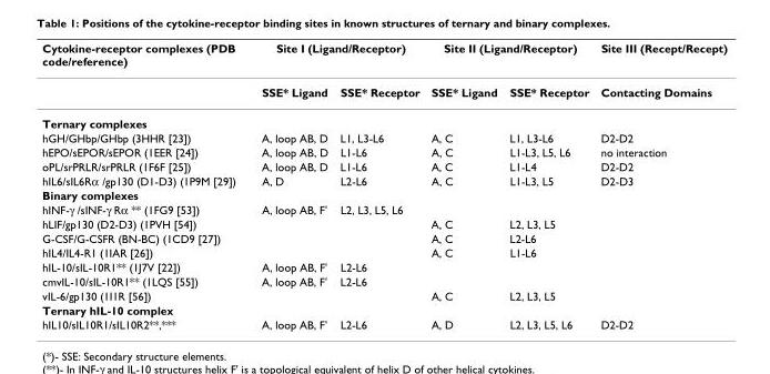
<table><thead><tr><td rowspan="2">Cytokine-receptor complexes (PDB code/reference)</td><td colspan="2">Site I (Ligand/Receptor)</td><td colspan="2">Site II (Ligand/Receptor)</td><td rowspan="2">Site III (Recept/Recept) Contacting Domains</td></tr><tr><td>SSE* Ligand</td><td>SSE* Receptor</td><td>SSE* Ligand</td><td>SSE* Receptor</td></tr></thead><tbody><tr><td colspan="6">Ternary complexes</td></tr><tr><td>hGH/GHbp/GHbp (3HHR [23])</td><td>A, loop AB, D</td><td>L1, L3-L6</td><td>A, C</td><td>L1, L3-L6</td><td>D2-D2</td></tr><tr><td>hEPO/sEPOR/sEPOR (1EER [24])</td><td>A, loop AB, D</td><td>L1-L6</td><td>A, C</td><td>L1-L3, L5, L6</td><td>no interaction</td></tr><tr><td>oPL/srPRLR/srPRLR (1F6F [25])</td><td>A, loop AB, D</td><td>L1-L6</td><td>A, C</td><td>L1-L4</td><td>D2-D2</td></tr><tr><td>hIL6/sIL6Rα /gp130 (D1-D3) (1P9M [29])</td><td>A, D</td><td>L2-L6</td><td>A, C</td><td>L1-L3, L5</td><td>D2-D3</td></tr><tr><td colspan="6">Binary complexes</td></tr><tr><td>hINF-γ /sINF-γ Rα ** (1FG9 [53])</td><td>A, loop AB, F&#x27;</td><td>L2, L3, L5, L6</td><td></td><td></td><td></td></tr><tr><td>hLIF/gp130 (D2-D3) (1PVH [54])</td><td></td><td></td><td>A, C</td><td>L2, L3, L5</td><td></td></tr><tr><td>G-CSF/G-CSFR (BN-BC) (1CD9 [27])</td><td></td><td></td><td>A, C</td><td>L2-L6</td><td></td></tr><tr><td>hIL4/IL4-R1 (1IAR [26])</td><td></td><td></td><td>A, C</td><td>L1-L6</td><td></td></tr><tr><td>hIL-10/sIL-10R1** (1J7V [22])</td><td>A, loop AB, F&#x27;</td><td>L2-L6</td><td></td><td></td><td></td></tr><tr><td>cmvIL-10/sIL-10R1** (1LQS [55])</td><td>A, loop AB, F&#x27;</td><td>L2-L6</td><td></td><td></td><td></td></tr><tr><td>vIL-6/gp130 (1I1R [56])</td><td></td><td></td><td>A, C</td><td>L2, L3, L5</td><td></td></tr><tr><td colspan="6">Ternary hIL-10 complex</td></tr><tr><td>hIL10/sIL10R1/sIL10R2**,***</td><td>A, loop AB, F&#x27;</td><td>L2-L6</td><td>A, D</td><td>L2, L3, L5, L6</td><td>D2-D2</td></tr></tbody></table>